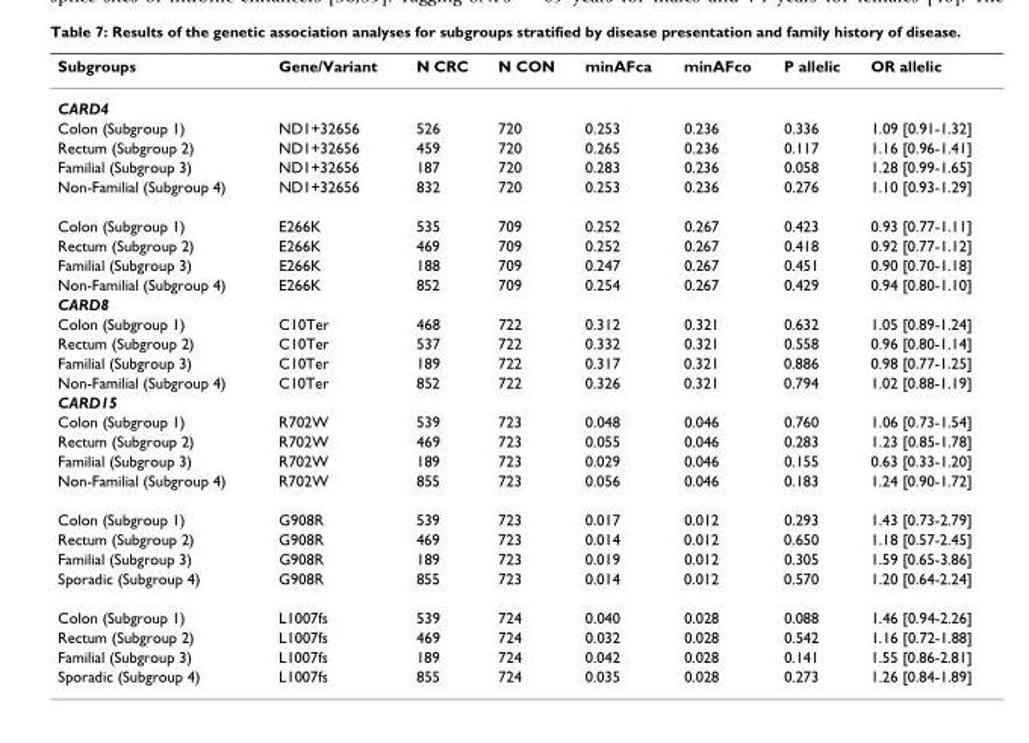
<table><thead><tr><td>Subgroups</td><td>Gene/Variant</td><td>N CRC</td><td>N CON</td><td>minAFca</td><td>minAFco</td><td>P allelic</td><td>OR allelic</td></tr></thead><tbody><tr><td colspan="8">CARD4</td></tr><tr><td>Colon (Subgroup 1)</td><td>ND1+32656</td><td>526</td><td>720</td><td>0.253</td><td>0.236</td><td>0.336</td><td>1.09 [0.91-1.32]</td></tr><tr><td>Rectum (Subgroup 2)</td><td>ND1+32656</td><td>459</td><td>720</td><td>0.265</td><td>0.236</td><td>0.117</td><td>1.16 [0.96-1.41]</td></tr><tr><td>Familial (Subgroup 3)</td><td>ND1+32656</td><td>187</td><td>720</td><td>0.283</td><td>0.236</td><td>0.058</td><td>1.28 [0.99-1.65]</td></tr><tr><td>Non-Familial (Subgroup 4)</td><td>ND1+32656</td><td>832</td><td>720</td><td>0.253</td><td>0.236</td><td>0.276</td><td>1.10 [0.93-1.29]</td></tr><tr><td>Colon (Subgroup 1)</td><td>E266K</td><td>535</td><td>709</td><td>0.252</td><td>0.267</td><td>0.423</td><td>0.93 [0.77-1.11]</td></tr><tr><td>Rectum (Subgroup 2)</td><td>E266K</td><td>469</td><td>709</td><td>0.252</td><td>0.267</td><td>0.418</td><td>0.92 [0.77-1.12]</td></tr><tr><td>Familial (Subgroup 3)</td><td>E266K</td><td>188</td><td>709</td><td>0.247</td><td>0.267</td><td>0.451</td><td>0.90 [0.70-1.18]</td></tr><tr><td>Non-Familial (Subgroup 4)</td><td>E266K</td><td>852</td><td>709</td><td>0.254</td><td>0.267</td><td>0.429</td><td>0.94 [0.80-1.10]</td></tr><tr><td colspan="8">CARD8</td></tr><tr><td>Colon (Subgroup 1)</td><td>C10Ter</td><td>468</td><td>722</td><td>0.312</td><td>0.321</td><td>0.632</td><td>1.05 [0.89-1.24]</td></tr><tr><td>Rectum (Subgroup 2)</td><td>C10Ter</td><td>537</td><td>722</td><td>0.332</td><td>0.321</td><td>0.558</td><td>0.96 [0.80-1.14]</td></tr><tr><td>Familial (Subgroup 3)</td><td>C10Ter</td><td>189</td><td>722</td><td>0.317</td><td>0.321</td><td>0.886</td><td>0.98 [0.77-1.25]</td></tr><tr><td>Non-Familial (Subgroup 4)</td><td>C10Ter</td><td>852</td><td>722</td><td>0.326</td><td>0.321</td><td>0.794</td><td>1.02 [0.88-1.19]</td></tr><tr><td colspan="8">CARD15</td></tr><tr><td>Colon (Subgroup 1)</td><td>R702W</td><td>539</td><td>723</td><td>0.048</td><td>0.046</td><td>0.760</td><td>1.06 [0.73-1.54]</td></tr><tr><td>Rectum (Subgroup 2)</td><td>R702W</td><td>469</td><td>723</td><td>0.055</td><td>0.046</td><td>0.283</td><td>1.23 [0.85-1.78]</td></tr><tr><td>Familial (Subgroup 3)</td><td>R702W</td><td>189</td><td>723</td><td>0.029</td><td>0.046</td><td>0.155</td><td>0.63 [0.33-1.20]</td></tr><tr><td>Non-Familial (Subgroup 4)</td><td>R702W</td><td>855</td><td>723</td><td>0.056</td><td>0.046</td><td>0.183</td><td>1.24 [0.90-1.72]</td></tr><tr><td>Colon (Subgroup 1)</td><td>G908R</td><td>539</td><td>723</td><td>0.017</td><td>0.012</td><td>0.293</td><td>1.43 [0.73-2.79]</td></tr><tr><td>Rectum (Subgroup 2)</td><td>G908R</td><td>469</td><td>723</td><td>0.014</td><td>0.012</td><td>0.650</td><td>1.18 [0.57-2.45]</td></tr><tr><td>Familial (Subgroup 3)</td><td>G908R</td><td>189</td><td>723</td><td>0.019</td><td>0.012</td><td>0.305</td><td>1.59 [0.65-3.86]</td></tr><tr><td>Sporadic (Subgroup 4)</td><td>G908R</td><td>855</td><td>723</td><td>0.014</td><td>0.012</td><td>0.570</td><td>1.20 [0.64-2.24]</td></tr><tr><td>Colon (Subgroup 1)</td><td>L1007fs</td><td>539</td><td>724</td><td>0.040</td><td>0.028</td><td>0.088</td><td>1.46 [0.94-2.26]</td></tr><tr><td>Rectum (Subgroup 2)</td><td>L1007fs</td><td>469</td><td>724</td><td>0.032</td><td>0.028</td><td>0.542</td><td>1.16 [0.72-1.88]</td></tr><tr><td>Familial (Subgroup 3)</td><td>L1007fs</td><td>189</td><td>724</td><td>0.042</td><td>0.028</td><td>0.141</td><td>1.55 [0.86-2.81]</td></tr><tr><td>Sporadic (Subgroup 4)</td><td>L1007fs</td><td>855</td><td>724</td><td>0.035</td><td>0.028</td><td>0.273</td><td>1.26 [0.84-1.89]</td></tr></tbody></table>